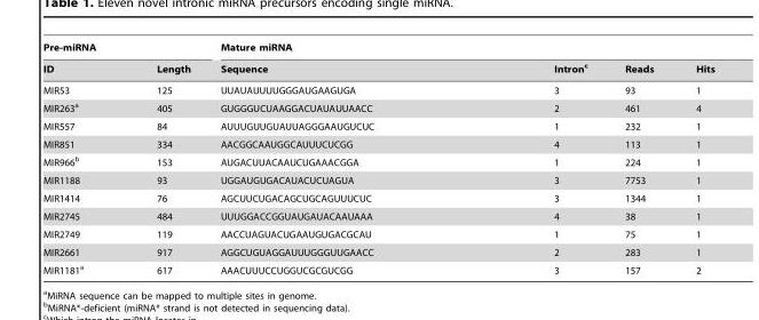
<table><thead><tr><td colspan="2">Pre-miRNA</td><td colspan="4">Mature miRNA</td></tr><tr><td>ID</td><td>Length</td><td>Sequence</td><td>Intron<sup>c</sup></td><td>Reads</td><td>Hits</td></tr></thead><tbody><tr><td>MIR53</td><td>125</td><td>UUAUAUUUUGGGAUGAAGUGA</td><td>3</td><td>93</td><td>1</td></tr><tr><td>MIR263<sup>a</sup></td><td>405</td><td>GUGGGUCUAAGGACUAUAUUAACC</td><td>2</td><td>461</td><td>4</td></tr><tr><td>MIR557</td><td>84</td><td>AUUUGUUGUAUUAGGGAAUGUCUC</td><td>1</td><td>232</td><td>1</td></tr><tr><td>MIR851</td><td>334</td><td>AACGGCAAUGGCAUUUCUCGG</td><td>4</td><td>113</td><td>1</td></tr><tr><td>MIR966<sup>b</sup></td><td>153</td><td>AUGACUUACAAUCUGAAACGGA</td><td>1</td><td>224</td><td>1</td></tr><tr><td>MIR1188</td><td>93</td><td>UGGAUGUGACAUACUCUAGUA</td><td>3</td><td>7753</td><td>1</td></tr><tr><td>MIR1414</td><td>76</td><td>AGCUUCUGACAGCUGCAGUUUCUC</td><td>3</td><td>1344</td><td>1</td></tr><tr><td>MIR2745</td><td>484</td><td>UUUGGACCGGUAUGAUACAAUAAA</td><td>4</td><td>38</td><td>1</td></tr><tr><td>MIR2749</td><td>119</td><td>AACCUAGUACUGAAUGUGACGCAU</td><td>1</td><td>75</td><td>1</td></tr><tr><td>MIR2661</td><td>917</td><td>AGGCUGUAGGAUUUGGGUUGAACC</td><td>2</td><td>283</td><td>1</td></tr><tr><td>MIR1181<sup>a</sup></td><td>617</td><td>AAACUUUCCUGGUCGCGUCGG</td><td>3</td><td>157</td><td>2</td></tr></tbody></table>